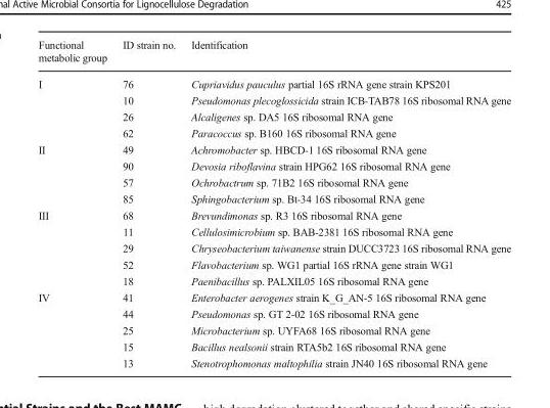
<table><thead><tr><td>Functional metabolic group</td><td>ID strain no.</td><td>Identification</td></tr></thead><tbody><tr><td rowspan="4">I</td><td>76</td><td>Cupriavidus pauculus partial 16S rRNA gene strain KPS201</td></tr><tr><td>10</td><td>Pseudomonas plecoglossicida strain ICB-TAB78 16S ribosomal RNA gene</td></tr><tr><td>26</td><td>Alcaligenes sp. DA5 16S ribosomal RNA gene</td></tr><tr><td>62</td><td>Paracoccus sp. B160 16S ribosomal RNA gene</td></tr><tr><td rowspan="4">II</td><td>49</td><td>Achromobacter sp. HBCD-1 16S ribosomal RNA gene</td></tr><tr><td>90</td><td>Devosia riboflavina strain HPG62 16S ribosomal RNA gene</td></tr><tr><td>57</td><td>Ochrobactrum sp. 71B2 16S ribosomal RNA gene</td></tr><tr><td>85</td><td>Sphingobacterium sp. Bt-34 16S ribosomal RNA gene</td></tr><tr><td rowspan="5">III</td><td>68</td><td>Brevundimonas sp. R3 16S ribosomal RNA gene</td></tr><tr><td>11</td><td>Cellulosimicrobium sp. BAB-2381 16S ribosomal RNA gene</td></tr><tr><td>29</td><td>Chryseobacterium taiwanense strain DUCC3723 16S ribosomal RNA gene</td></tr><tr><td>52</td><td>Flavobacterium sp. WG1 partial 16S rRNA gene strain WG1</td></tr><tr><td>18</td><td>Paenibacillus sp. PALXIL05 16S ribosomal RNA gene</td></tr><tr><td rowspan="5">IV</td><td>41</td><td>Enterobacter aerogenes strain K_G_AN-5 16S ribosomal RNA gene</td></tr><tr><td>44</td><td>Pseudomonas sp. GT 2-02 16S ribosomal RNA gene</td></tr><tr><td>25</td><td>Microbacterium sp. UYFA68 16S ribosomal RNA gene</td></tr><tr><td>15</td><td>Bacillus nealsonii strain RTA5b2 16S ribosomal RNA gene</td></tr><tr><td>13</td><td>Stenotrophomonas maltophilia strain JN40 16S ribosomal RNA gene</td></tr></tbody></table>